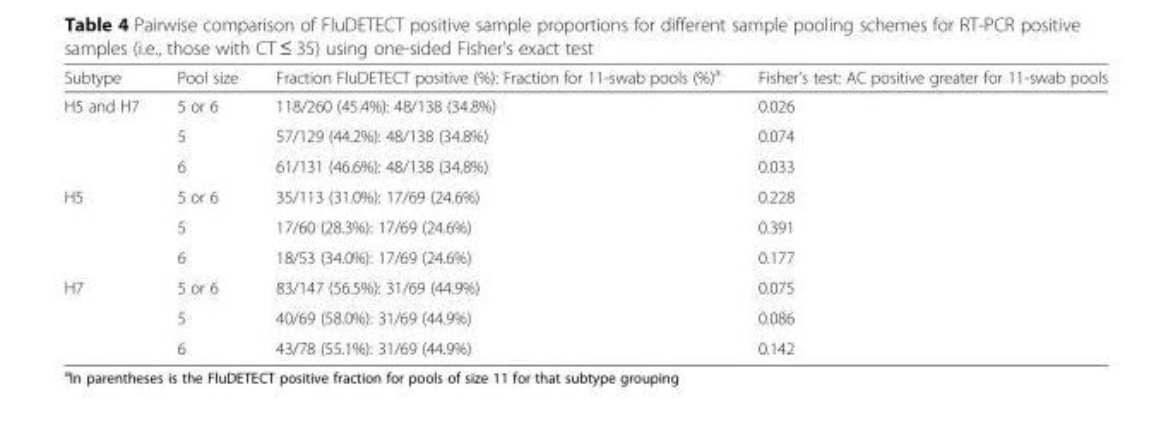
<table><thead><tr><td>Subtype</td><td>Pool size</td><td>Fraction FluDETECT positive (%): Fraction for 11-swab pools (%)<sup>a</sup></td><td>Fisher’s test: AC positive greater for 11-swab pools</td></tr></thead><tbody><tr><td rowspan="3">H5 and H7</td><td>5 or 6</td><td>118/260 (45.4%): 48/138 (34.8%)</td><td>0.026</td></tr><tr><td>5</td><td>57/129 (44.2%): 48/138 (34.8%)</td><td>0.074</td></tr><tr><td>6</td><td>61/131 (46.6%): 48/138 (34.8%)</td><td>0.033</td></tr><tr><td rowspan="3">H5</td><td>5 or 6</td><td>35/113 (31.0%): 17/69 (24.6%)</td><td>0.228</td></tr><tr><td>5</td><td>17/60 (28.3%): 17/69 (24.6%)</td><td>0.391</td></tr><tr><td>6</td><td>18/53 (34.0%): 17/69 (24.6%)</td><td>0.177</td></tr><tr><td rowspan="3">H7</td><td>5 or 6</td><td>83/147 (56.5%): 31/69 (44.9%)</td><td>0.075</td></tr><tr><td>5</td><td>40/69 (58.0%): 31/69 (44.9%)</td><td>0.086</td></tr><tr><td>6</td><td>43/78 (55.1%): 31/69 (44.9%)</td><td>0.142</td></tr></tbody></table>